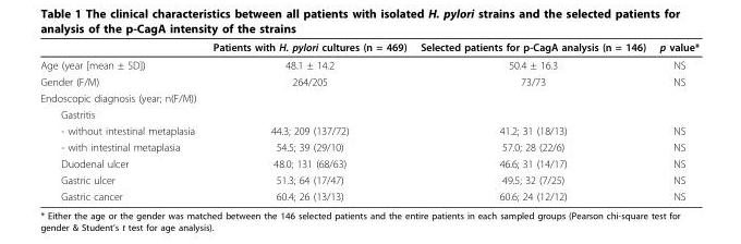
<table><thead><tr><td></td><td>Patients with H. pylori cultures (n = 469)</td><td>Selected patients for p-CagA analysis (n = 146)</td><td>p value*</td></tr></thead><tbody><tr><td>Age (year [mean ± SD])</td><td>48.1 ± 14.2</td><td>50.4 ± 16.3</td><td>NS</td></tr><tr><td>Gender (F/M)</td><td>264/205</td><td>73/73</td><td>NS</td></tr><tr><td colspan="4">Endoscopic diagnosis (year; n(F/M))</td></tr><tr><td colspan="4">Gastritis</td></tr><tr><td>- without intestinal metaplasia</td><td>44.3; 209 (137/72)</td><td>41.2; 31 (18/13)</td><td>NS</td></tr><tr><td>- with intestinal metaplasia</td><td>54.5; 39 (29/10)</td><td>57.0; 28 (22/6)</td><td>NS</td></tr><tr><td>Duodenal ulcer</td><td>48.0; 131 (68/63)</td><td>46.6; 31 (14/17)</td><td>NS</td></tr><tr><td>Gastric ulcer</td><td>51.3; 64 (17/47)</td><td>49.5; 32 (7/25)</td><td>NS</td></tr><tr><td>Gastric cancer</td><td>60.4; 26 (13/13)</td><td>60.6; 24 (12/12)</td><td>NS</td></tr></tbody></table>